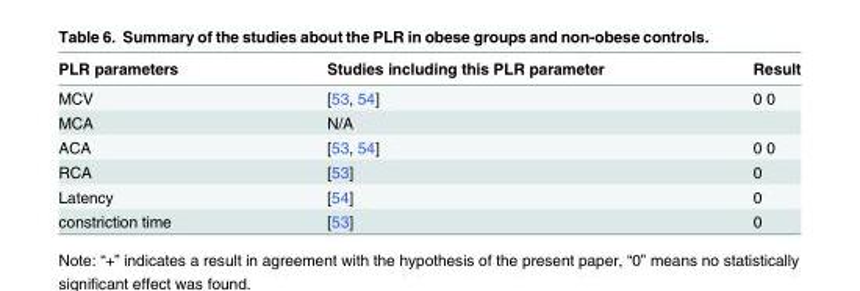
<table><thead><tr><td>PLR parameters</td><td>Studies including this PLR parameter</td><td>Result</td></tr></thead><tbody><tr><td>MCV</td><td>[53, 54]</td><td>0 0</td></tr><tr><td>MCA</td><td>N/A</td><td></td></tr><tr><td>ACA</td><td>[53, 54]</td><td>0 0</td></tr><tr><td>RCA</td><td>[53]</td><td>0</td></tr><tr><td>Latency</td><td>[54]</td><td>0</td></tr><tr><td>constriction time</td><td>[53]</td><td>0</td></tr></tbody></table>